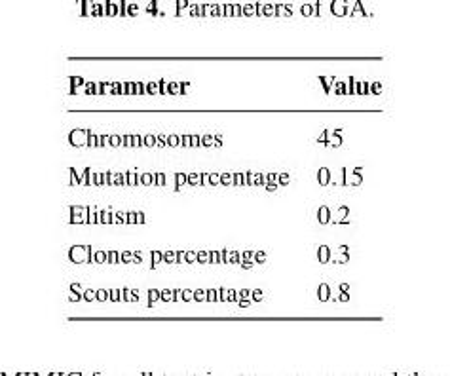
<table><thead><tr><td>Parameter</td><td>Value</td></tr></thead><tbody><tr><td>Chromosomes</td><td>45</td></tr><tr><td>Mutation percentage</td><td>0.15</td></tr><tr><td>Elitism</td><td>0.2</td></tr><tr><td>Clones percentage</td><td>0.3</td></tr><tr><td>Scouts percentage</td><td>0.8</td></tr></tbody></table>